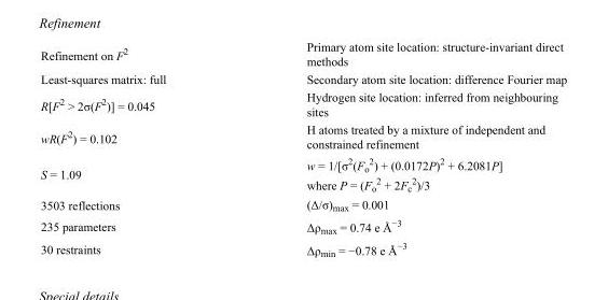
<table><tbody><tr><td>Refinement on F<sup>2</sup></td><td>Primary atom site location: structure-invariant direct methods</td></tr><tr><td>Least-squares matrix: full</td><td>Secondary atom site location: difference Fourier map</td></tr><tr><td>R[F<sup>2</sup> &gt; 2σ(F<sup>2</sup>)] = 0.045</td><td>Hydrogen site location: inferred from neighbouring sites</td></tr><tr><td>wR(F<sup>2</sup>) = 0.102</td><td>H atoms treated by a mixture of independent and constrained refinement</td></tr><tr><td>S = 1.09</td><td>w = 1/[σ<sup>2</sup>(F<sub>o</sub> <sup>2</sup>) + (0.0172P)<sup>2</sup> + 6.2081P] where P = (F<sub>o</sub> <sup>2</sup> + 2F<sub>c</sub> <sup>2</sup>)/3</td></tr><tr><td>3503 reflections</td><td>(Δ/σ)<sub>max</sub> = 0.001</td></tr><tr><td>235 parameters</td><td>Δρ<sub>max</sub> = 0.74 e Å<sup>−3</sup></td></tr><tr><td>30 restraints</td><td>Δρ<sub>min</sub> = −0.78 e Å<sup>−3</sup></td></tr></tbody></table>